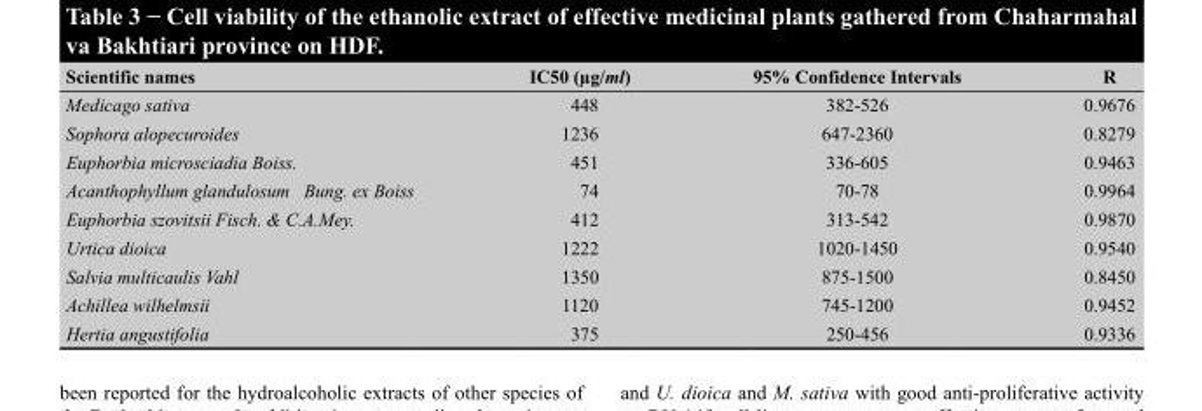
<table><thead><tr><td>Scientific names</td><td>IC50 (µg/ml)</td><td>95% Confidence Intervals</td><td>R</td></tr></thead><tbody><tr><td>Medicago sativa</td><td>448</td><td>382-526</td><td>0.9676</td></tr><tr><td>Sophora alopecuroides</td><td>1236</td><td>647-2360</td><td>0.8279</td></tr><tr><td>Euphorbia microsciadia Boiss.</td><td>451</td><td>336-605</td><td>0.9463</td></tr><tr><td>Acanthophyllum glandulosum Bung. ex Boiss</td><td>74</td><td>70-78</td><td>0.9964</td></tr><tr><td>Euphorbia szovitsii Fisch. &amp; C.A.Mey.</td><td>412</td><td>313-542</td><td>0.9870</td></tr><tr><td>Urtica dioica</td><td>1222</td><td>1020-1450</td><td>0.9540</td></tr><tr><td>Salvia multicaulis Vahl</td><td>1350</td><td>875-1500</td><td>0.8450</td></tr><tr><td>Achillea wilhelmsii</td><td>1120</td><td>745-1200</td><td>0.9452</td></tr><tr><td>Hertia angustifolia</td><td>375</td><td>250-456</td><td>0.9336</td></tr></tbody></table>